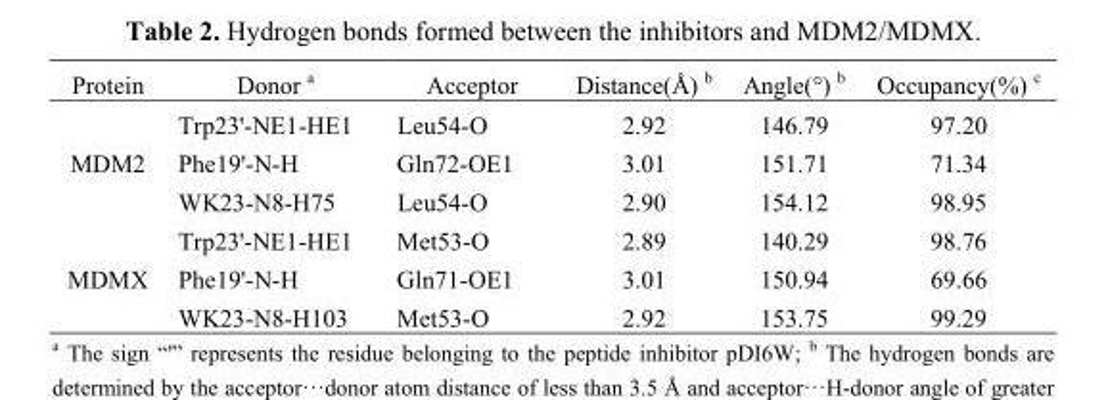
<table><thead><tr><td>Protein</td><td>Donor a</td><td>Acceptor</td><td>Distance(Å) b</td><td>Angle(°) b</td><td>Occupancy(%) c</td></tr></thead><tbody><tr><td rowspan="3">MDM2</td><td>Trp23&#x27;-NE1-HE1</td><td>Leu54-O</td><td>2.92</td><td>146.79</td><td>97.20</td></tr><tr><td>Phe19&#x27;-N-H</td><td>Gln72-OE1</td><td>3.01</td><td>151.71</td><td>71.34</td></tr><tr><td>WK23-N8-H75</td><td>Leu54-O</td><td>2.90</td><td>154.12</td><td>98.95</td></tr><tr><td rowspan="3">MDMX</td><td>Trp23&#x27;-NE1-HE1</td><td>Met53-O</td><td>2.89</td><td>140.29</td><td>98.76</td></tr><tr><td>Phe19&#x27;-N-H</td><td>Gln71-OE1</td><td>3.01</td><td>150.94</td><td>69.66</td></tr><tr><td>WK23-N8-H103</td><td>Met53-O</td><td>2.92</td><td>153.75</td><td>99.29</td></tr></tbody></table>